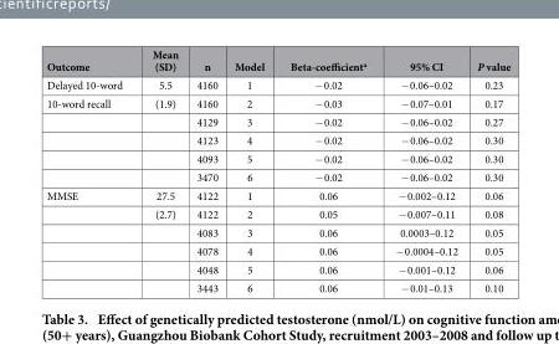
<table><thead><tr><td>Outcome</td><td>Mean (SD)</td><td>n</td><td>Model</td><td>Beta-coefficient<sup>a</sup></td><td>95% CI</td><td>P value</td></tr></thead><tbody><tr><td>Delayed 10-word</td><td>5.5</td><td>4160</td><td>1</td><td>− 0.02</td><td>− 0.06–0.02</td><td>0.23</td></tr><tr><td rowspan="5">10-word recall</td><td>(1.9)</td><td>4160</td><td>2</td><td>− 0.03</td><td>− 0.07–0.01</td><td>0.17</td></tr><tr><td></td><td>4129</td><td>3</td><td>− 0.02</td><td>− 0.06–0.02</td><td>0.27</td></tr><tr><td></td><td>4123</td><td>4</td><td>− 0.02</td><td>− 0.06–0.02</td><td>0.30</td></tr><tr><td></td><td>4093</td><td>5</td><td>− 0.02</td><td>− 0.06–0.02</td><td>0.30</td></tr><tr><td></td><td>3470</td><td>6</td><td>− 0.02</td><td>− 0.06–0.02</td><td>0.30</td></tr><tr><td rowspan="6">MMSE</td><td>27.5</td><td>4122</td><td>1</td><td>0.06</td><td>− 0.002–0.12</td><td>0.06</td></tr><tr><td>(2.7)</td><td>4122</td><td>2</td><td>0.05</td><td>− 0.007–0.11</td><td>0.08</td></tr><tr><td></td><td>4083</td><td>3</td><td>0.06</td><td>0.0003–0.12</td><td>0.05</td></tr><tr><td></td><td>4078</td><td>4</td><td>0.06</td><td>− 0.0004–0.12</td><td>0.05</td></tr><tr><td></td><td>4048</td><td>5</td><td>0.06</td><td>− 0.001–0.12</td><td>0.06</td></tr><tr><td></td><td>3443</td><td>6</td><td>0.06</td><td>− 0.01–0.13</td><td>0.10</td></tr></tbody></table>